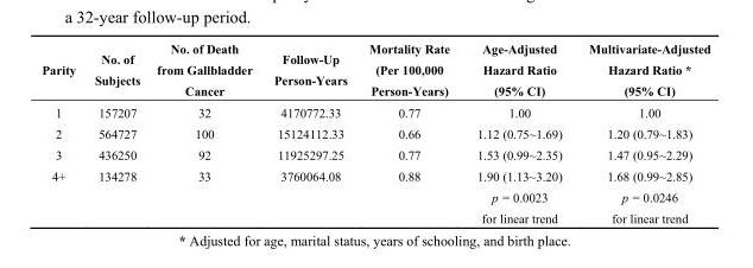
<table><thead><tr><td>Parity</td><td>No. of Subjects</td><td>No. of Death from Gallbladder Cancer</td><td>Follow-Up Person-Years</td><td>Mortality Rate (Per 100,000 Person-Years)</td><td>Age-Adjusted Hazard Ratio (95% CI)</td><td>Multivariate-Adjusted Hazard Ratio * (95% CI)</td></tr></thead><tbody><tr><td>1</td><td>157207</td><td>32</td><td>4170772.33</td><td>0.77</td><td>1.00</td><td>1.00</td></tr><tr><td>2</td><td>564727</td><td>100</td><td>15124112.33</td><td>0.66</td><td>1.12 (0.75~1.69)</td><td>1.20 (0.79~1.83)</td></tr><tr><td>3</td><td>436250</td><td>92</td><td>11925297.25</td><td>0.77</td><td>1.53 (0.99~2.35)</td><td>1.47 (0.95~2.29)</td></tr><tr><td rowspan="2">4+</td><td>134278</td><td>33</td><td>3760064.08</td><td>0.88</td><td>1.90 (1.13~3.20)</td><td>1.68 (0.99~2.85)</td></tr><tr><td></td><td></td><td></td><td></td><td>p = 0.0023 for linear trend</td><td>p = 0.0246 for linear trend</td></tr></tbody></table>